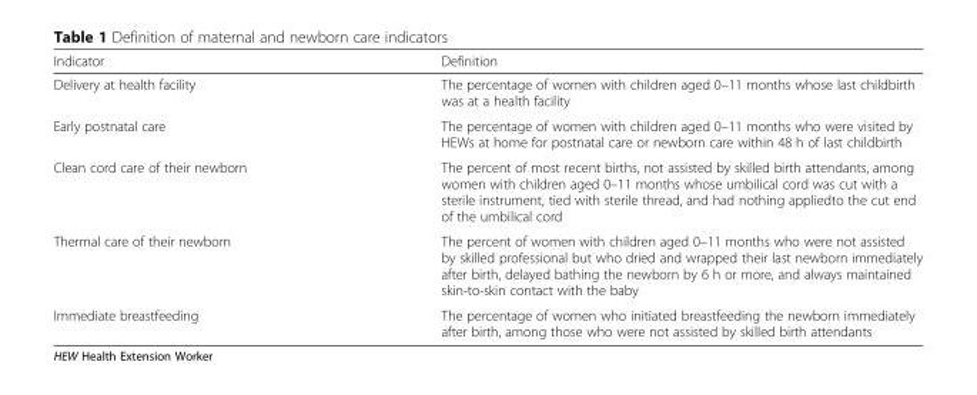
<table><thead><tr><td>Indicator</td><td>Definition</td></tr></thead><tbody><tr><td>Delivery at health facility</td><td>The percentage of women with children aged 0–11 months whose last childbirth was at a health facility</td></tr><tr><td>Early postnatal care</td><td>The percentage of women with children aged 0–11 months who were visited by HEWs at home for postnatal care or newborn care within 48 h of last childbirth</td></tr><tr><td>Clean cord care of their newborn</td><td>The percent of most recent births, not assisted by skilled birth attendants, among women with children aged 0–11 months whose umbilical cord was cut with a sterile instrument, tied with sterile thread, and had nothing appliedto the cut end of the umbilical cord</td></tr><tr><td>Thermal care of their newborn</td><td>The percent of women with children aged 0–11 months who were not assisted by skilled professional but who dried and wrapped their last newborn immediately after birth, delayed bathing the newborn by 6 h or more, and always maintained skin-to-skin contact with the baby</td></tr><tr><td>Immediate breastfeeding</td><td>The percentage of women who initiated breastfeeding the newborn immediately after birth, among those who were not assisted by skilled birth attendants</td></tr></tbody></table>